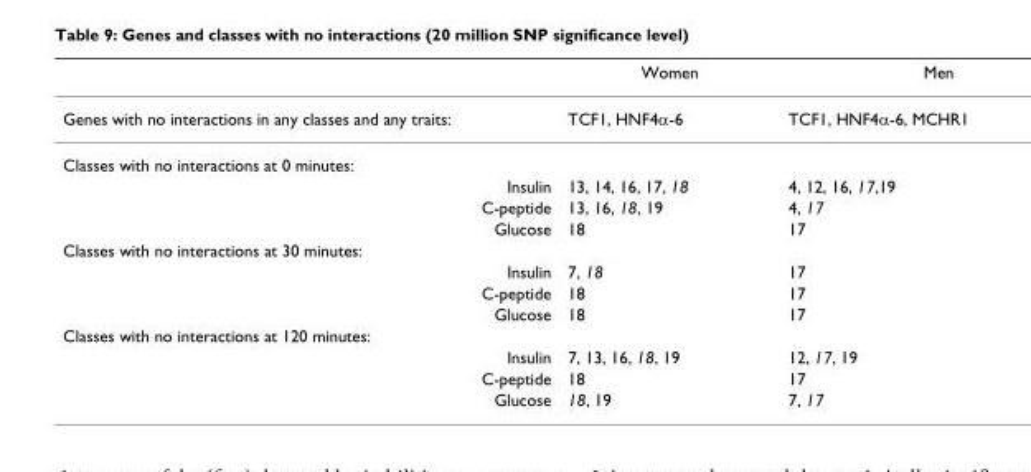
<table><thead><tr><td></td><td>Women</td><td>Men</td></tr></thead><tbody><tr><td>Genes with no interactions in any classes and any traits:</td><td>TCF1, HNF4α-6</td><td>TCF1, HNF4α-6, MCHR1</td></tr><tr><td colspan="3">Classes with no interactions at 0 minutes:</td></tr><tr><td>Insulin</td><td>13, 14, 16, 17, 18</td><td>4, 12, 16, 17,19</td></tr><tr><td>C-peptide</td><td>13, 16, 18, 19</td><td>4, 17</td></tr><tr><td>Glucose</td><td>18</td><td>17</td></tr><tr><td colspan="3">Classes with no interactions at 30 minutes:</td></tr><tr><td>Insulin</td><td>7, 18</td><td>17</td></tr><tr><td>C-peptide</td><td>18</td><td>17</td></tr><tr><td>Glucose</td><td>18</td><td>17</td></tr><tr><td colspan="3">Classes with no interactions at 120 minutes:</td></tr><tr><td>Insulin</td><td>7, 13, 16, 18, 19</td><td>12, 17, 19</td></tr><tr><td>C-peptide</td><td>18</td><td>17</td></tr><tr><td>Glucose</td><td>18, 19</td><td>7, 17</td></tr></tbody></table>